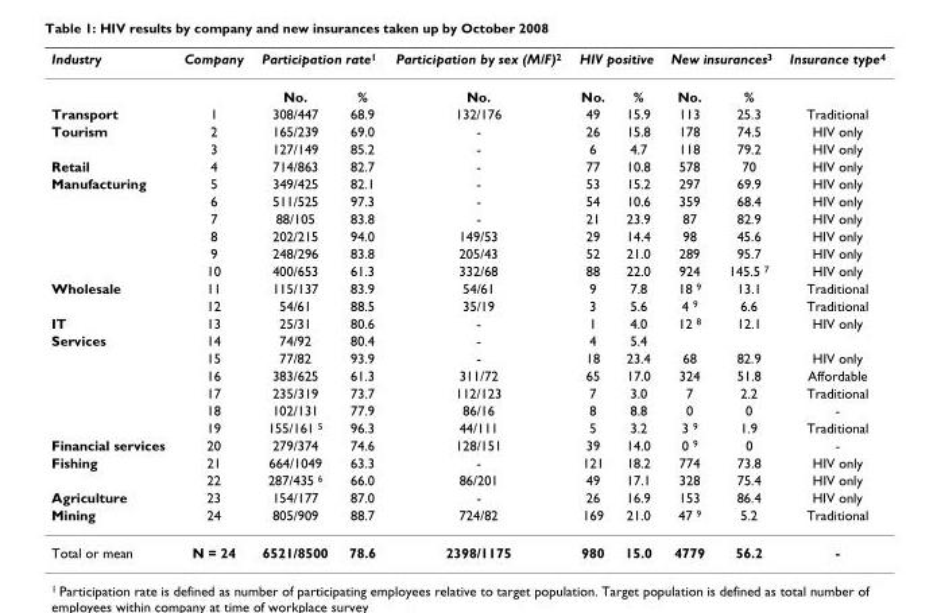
<table><thead><tr><td rowspan="2">Industry</td><td rowspan="2">Company</td><td colspan="2">Participation rate<sup>1</sup></td><td rowspan="2">Participation by sex (M/F)<sup>2</sup> No.</td><td colspan="2">HIV positive</td><td colspan="2">New insurances<sup>3</sup></td><td rowspan="2">Insurance type<sup>4</sup></td></tr><tr><td>No.</td><td>%</td><td>No.</td><td>%</td><td>No.</td><td>%</td></tr></thead><tbody><tr><td>Transport</td><td>1</td><td>308/447</td><td>68.9</td><td>132/176</td><td>49</td><td>15.9</td><td>113</td><td>25.3</td><td>Traditional</td></tr><tr><td rowspan="2">Tourism</td><td>2</td><td>165/239</td><td>69.0</td><td>-</td><td>26</td><td>15.8</td><td>178</td><td>74.5</td><td>HIV only</td></tr><tr><td>3</td><td>127/149</td><td>85.2</td><td>-</td><td>6</td><td>4.7</td><td>118</td><td>79.2</td><td>HIV only</td></tr><tr><td>Retail</td><td>4</td><td>714/863</td><td>82.7</td><td>-</td><td>77</td><td>10.8</td><td>578</td><td>70</td><td>HIV only</td></tr><tr><td rowspan="6">Manufacturing</td><td>5</td><td>349/425</td><td>82.1</td><td>-</td><td>53</td><td>15.2</td><td>297</td><td>69.9</td><td>HIV only</td></tr><tr><td>6</td><td>511/525</td><td>97.3</td><td>-</td><td>54</td><td>10.6</td><td>359</td><td>68.4</td><td>HIV only</td></tr><tr><td>7</td><td>88/105</td><td>83.8</td><td>-</td><td>21</td><td>23.9</td><td>87</td><td>82.9</td><td>HIV only</td></tr><tr><td>8</td><td>202/215</td><td>94.0</td><td>149/53</td><td>29</td><td>14.4</td><td>98</td><td>45.6</td><td>HIV only</td></tr><tr><td>9</td><td>248/296</td><td>83.8</td><td>205/43</td><td>52</td><td>21.0</td><td>289</td><td>95.7</td><td>HIV only</td></tr><tr><td>10</td><td>400/653</td><td>61.3</td><td>332/68</td><td>88</td><td>22.0</td><td>924</td><td>145.5 <sup>7</sup></td><td>HIV only</td></tr><tr><td rowspan="2">Wholesale</td><td>11</td><td>115/137</td><td>83.9</td><td>54/61</td><td>9</td><td>7.8</td><td>18 <sup>9</sup></td><td>13.1</td><td>Traditional</td></tr><tr><td>12</td><td>54/61</td><td>88.5</td><td>35/19</td><td>3</td><td>5.6</td><td>4 <sup>9</sup></td><td>6.6</td><td>Traditional</td></tr><tr><td>IT</td><td>13</td><td>25/31</td><td>80.6</td><td>-</td><td>1</td><td>4.0</td><td>12 <sup>8</sup></td><td>12.1</td><td>HIV only</td></tr><tr><td rowspan="6">Services</td><td>14</td><td>74/92</td><td>80.4</td><td>-</td><td>4</td><td>5.4</td><td></td><td></td><td></td></tr><tr><td>15</td><td>77/82</td><td>93.9</td><td>-</td><td>18</td><td>23.4</td><td>68</td><td>82.9</td><td>HIV only</td></tr><tr><td>16</td><td>383/625</td><td>61.3</td><td>311/72</td><td>65</td><td>17.0</td><td>324</td><td>51.8</td><td>Affordable</td></tr><tr><td>17</td><td>235/319</td><td>73.7</td><td>112/123</td><td>7</td><td>3.0</td><td>7</td><td>2.2</td><td>Traditional</td></tr><tr><td>18</td><td>102/131</td><td>77.9</td><td>86/16</td><td>8</td><td>8.8</td><td>0</td><td>0</td><td>-</td></tr><tr><td>19</td><td>155/161 <sup>5</sup></td><td>96.3</td><td>44/111</td><td>5</td><td>3.2</td><td>3 <sup>9</sup></td><td>1.9</td><td>Traditional</td></tr><tr><td>Financial services</td><td>20</td><td>279/374</td><td>74.6</td><td>128/151</td><td>39</td><td>14.0</td><td>0 <sup>9</sup></td><td>0</td><td>-</td></tr><tr><td rowspan="2">Fishing</td><td>21</td><td>664/1049</td><td>63.3</td><td>-</td><td>121</td><td>18.2</td><td>774</td><td>73.8</td><td>HIV only</td></tr><tr><td>22</td><td>287/435 <sup>6</sup></td><td>66.0</td><td>86/201</td><td>49</td><td>17.1</td><td>328</td><td>75.4</td><td>HIV only</td></tr><tr><td>Agriculture</td><td>23</td><td>154/177</td><td>87.0</td><td>-</td><td>26</td><td>16.9</td><td>153</td><td>86.4</td><td>HIV only</td></tr><tr><td>Mining</td><td>24</td><td>805/909</td><td>88.7</td><td>724/82</td><td>169</td><td>21.0</td><td>47 <sup>9</sup></td><td>5.2</td><td>Traditional</td></tr><tr><td>Total or mean</td><td>N = 24</td><td>6521/8500</td><td>78.6</td><td>2398/1175</td><td>980</td><td>15.0</td><td>4779</td><td>56.2</td><td>-</td></tr></tbody></table>